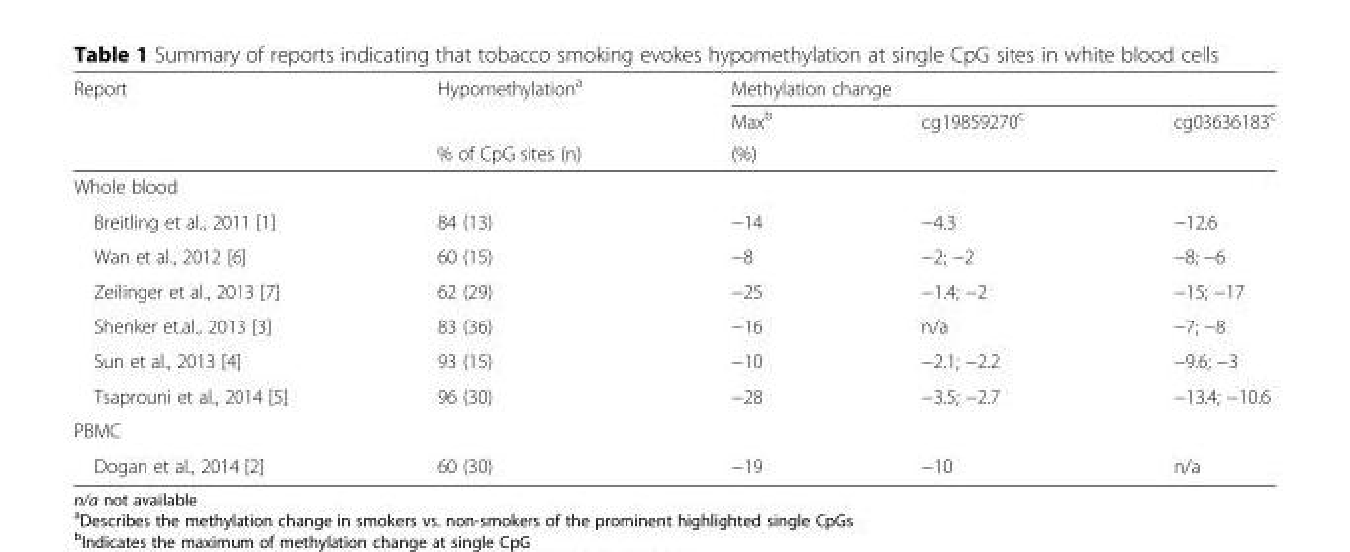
<table><thead><tr><td rowspan="3">Report</td><td rowspan="3">Hypomethylation<sup>a</sup> % of CpG sites (n)</td><td colspan="3">Methylation change</td></tr><tr><td>Max<sup>b</sup></td><td>cg19859270<sup>c</sup></td><td>cg03636183<sup>c</sup></td></tr><tr><td colspan="3">(%)</td></tr></thead><tbody><tr><td colspan="5">Whole blood</td></tr><tr><td>Breitling et al., 2011 [1]</td><td>84 (13)</td><td>−14</td><td>−4.3</td><td>−12.6</td></tr><tr><td>Wan et al., 2012 [6]</td><td>60 (15)</td><td>−8</td><td>−2; −2</td><td>−8; −6</td></tr><tr><td>Zeilinger et al., 2013 [7]</td><td>62 (29)</td><td>−25</td><td>−1.4; −2</td><td>−15; −17</td></tr><tr><td>Shenker et.al., 2013 [3]</td><td>83 (36)</td><td>−16</td><td>n/a</td><td>−7; −8</td></tr><tr><td>Sun et al., 2013 [4]</td><td>93 (15)</td><td>−10</td><td>−2.1; −2.2</td><td>−9.6; −3</td></tr><tr><td>Tsaprouni et al., 2014 [5]</td><td>96 (30)</td><td>−28</td><td>−3.5; −2.7</td><td>−13.4; −10.6</td></tr><tr><td colspan="5">PBMC</td></tr><tr><td>Dogan et al., 2014 [2]</td><td>60 (30)</td><td>−19</td><td>−10</td><td>n/a</td></tr></tbody></table>